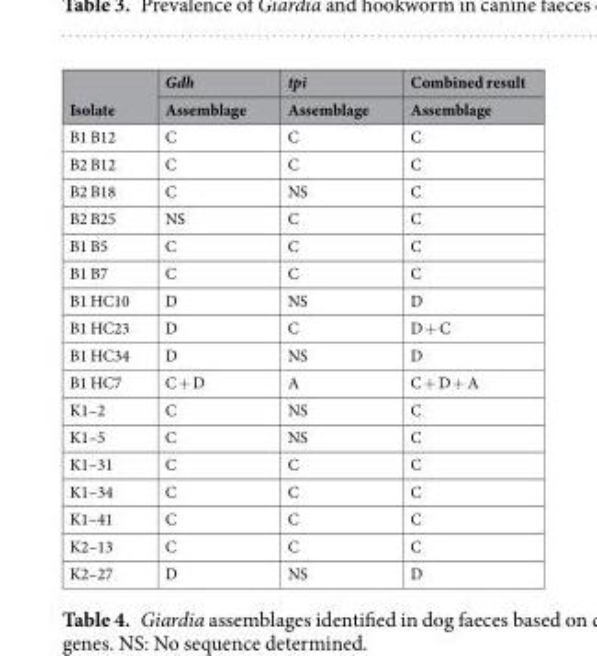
<table><thead><tr><td rowspan="2">Isolate</td><td rowspan="2">Gdh Assemblage</td><td rowspan="2">tpi Assemblage</td><td rowspan="2">Combined result Assemblage</td></tr><tr></tr></thead><tbody><tr><td>B1 B12</td><td>C</td><td>C</td><td>C</td></tr><tr><td>B2 B12</td><td>C</td><td>C</td><td>C</td></tr><tr><td>B2 B18</td><td>C</td><td>NS</td><td>C</td></tr><tr><td>B2 B25</td><td>NS</td><td>C</td><td>C</td></tr><tr><td>B1 B5</td><td>C</td><td>C</td><td>C</td></tr><tr><td>B1 B7</td><td>C</td><td>C</td><td>C</td></tr><tr><td>B1 HC10</td><td>D</td><td>NS</td><td>D</td></tr><tr><td>B1 HC23</td><td>D</td><td>C</td><td>D + C</td></tr><tr><td>B1 HC34</td><td>D</td><td>NS</td><td>D</td></tr><tr><td>B1 HC7</td><td>C + D</td><td>A</td><td>C + D + A</td></tr><tr><td>K1–2</td><td>C</td><td>NS</td><td>C</td></tr><tr><td>K1–5</td><td>C</td><td>NS</td><td>C</td></tr><tr><td>K1–31</td><td>C</td><td>C</td><td>C</td></tr><tr><td>K1–34</td><td>C</td><td>C</td><td>C</td></tr><tr><td>K1–41</td><td>C</td><td>C</td><td>C</td></tr><tr><td>K2–13</td><td>C</td><td>C</td><td>C</td></tr><tr><td>K2–27</td><td>D</td><td>NS</td><td>D</td></tr></tbody></table>